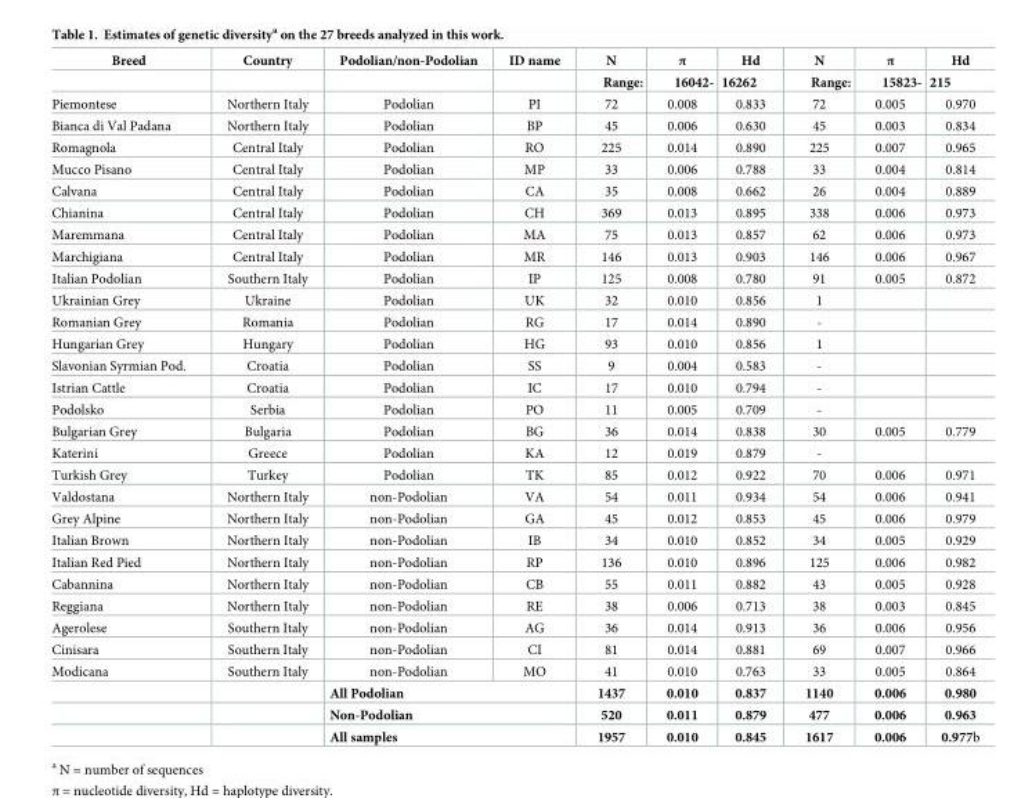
<table><thead><tr><td rowspan="2">Breed</td><td rowspan="2">Country</td><td rowspan="2">Podolian/non-Podolian</td><td rowspan="2">ID name</td><td rowspan="2">N Range:</td><td rowspan="2">π 16042-</td><td rowspan="2">Hd 16262</td><td rowspan="2">N Range:</td><td rowspan="2">π 15823-</td><td rowspan="2">Hd 215</td></tr><tr></tr></thead><tbody><tr><td>Piemontese</td><td>Northern Italy</td><td>Podolian</td><td>PI</td><td>72</td><td>0.008</td><td>0.833</td><td>72</td><td>0.005</td><td>0.970</td></tr><tr><td>Bianca di Val Padana</td><td>Northern Italy</td><td>Podolian</td><td>BP</td><td>45</td><td>0.006</td><td>0.630</td><td>45</td><td>0.003</td><td>0.834</td></tr><tr><td>Romagnola</td><td>Central Italy</td><td>Podolian</td><td>RO</td><td>225</td><td>0.014</td><td>0.890</td><td>225</td><td>0.007</td><td>0.965</td></tr><tr><td>Mucco Pisano</td><td>Central Italy</td><td>Podolian</td><td>MP</td><td>33</td><td>0.006</td><td>0.788</td><td>33</td><td>0.004</td><td>0.814</td></tr><tr><td>Calvana</td><td>Central Italy</td><td>Podolian</td><td>CA</td><td>35</td><td>0.008</td><td>0.662</td><td>26</td><td>0.004</td><td>0.889</td></tr><tr><td>Chianina</td><td>Central Italy</td><td>Podolian</td><td>CH</td><td>369</td><td>0.013</td><td>0.895</td><td>338</td><td>0.006</td><td>0.973</td></tr><tr><td>Maremmana</td><td>Central Italy</td><td>Podolian</td><td>MA</td><td>75</td><td>0.013</td><td>0.857</td><td>62</td><td>0.006</td><td>0.973</td></tr><tr><td>Marchigiana</td><td>Central Italy</td><td>Podolian</td><td>MR</td><td>146</td><td>0.013</td><td>0.903</td><td>146</td><td>0.006</td><td>0.967</td></tr><tr><td>Italian Podolian</td><td>Southern Italy</td><td>Podolian</td><td>IP</td><td>125</td><td>0.008</td><td>0.780</td><td>91</td><td>0.005</td><td>0.872</td></tr><tr><td>Ukrainian Grey</td><td>Ukraine</td><td>Podolian</td><td>UK</td><td>32</td><td>0.010</td><td>0.856</td><td>1</td><td></td><td></td></tr><tr><td>Romanian Grey</td><td>Romania</td><td>Podolian</td><td>RG</td><td>17</td><td>0.014</td><td>0.890</td><td>-</td><td></td><td></td></tr><tr><td>Hungarian Grey</td><td>Hungary</td><td>Podolian</td><td>HG</td><td>93</td><td>0.010</td><td>0.856</td><td>1</td><td></td><td></td></tr><tr><td>Slavonian Syrmian Pod.</td><td>Croatia</td><td>Podolian</td><td>SS</td><td>9</td><td>0.004</td><td>0.583</td><td>-</td><td></td><td></td></tr><tr><td>Istrian Cattle</td><td>Croatia</td><td>Podolian</td><td>IC</td><td>17</td><td>0.010</td><td>0.794</td><td>-</td><td></td><td></td></tr><tr><td>Podolsko</td><td>Serbia</td><td>Podolian</td><td>PO</td><td>11</td><td>0.005</td><td>0.709</td><td>-</td><td></td><td></td></tr><tr><td>Bulgarian Grey</td><td>Bulgaria</td><td>Podolian</td><td>BG</td><td>36</td><td>0.014</td><td>0.838</td><td>30</td><td>0.005</td><td>0.779</td></tr><tr><td>Katerini</td><td>Greece</td><td>Podolian</td><td>KA</td><td>12</td><td>0.019</td><td>0.879</td><td>-</td><td></td><td></td></tr><tr><td>Turkish Grey</td><td>Turkey</td><td>Podolian</td><td>TK</td><td>85</td><td>0.012</td><td>0.922</td><td>70</td><td>0.006</td><td>0.971</td></tr><tr><td>Valdostana</td><td>Northern Italy</td><td>non-Podolian</td><td>VA</td><td>54</td><td>0.011</td><td>0.934</td><td>54</td><td>0.006</td><td>0.941</td></tr><tr><td>Grey Alpine</td><td>Northern Italy</td><td>non-Podolian</td><td>GA</td><td>45</td><td>0.012</td><td>0.853</td><td>45</td><td>0.006</td><td>0.979</td></tr><tr><td>Italian Brown</td><td>Northern Italy</td><td>non-Podolian</td><td>IB</td><td>34</td><td>0.010</td><td>0.852</td><td>34</td><td>0.005</td><td>0.929</td></tr><tr><td>Italian Red Pied</td><td>Northern Italy</td><td>non-Podolian</td><td>RP</td><td>136</td><td>0.010</td><td>0.896</td><td>125</td><td>0.006</td><td>0.982</td></tr><tr><td>Cabannina</td><td>Northern Italy</td><td>non-Podolian</td><td>CB</td><td>55</td><td>0.011</td><td>0.882</td><td>43</td><td>0.005</td><td>0.928</td></tr><tr><td>Reggiana</td><td>Northern Italy</td><td>non-Podolian</td><td>RE</td><td>38</td><td>0.006</td><td>0.713</td><td>38</td><td>0.003</td><td>0.845</td></tr><tr><td>Agerolese</td><td>Southern Italy</td><td>non-Podolian</td><td>AG</td><td>36</td><td>0.014</td><td>0.913</td><td>36</td><td>0.006</td><td>0.956</td></tr><tr><td>Cinisara</td><td>Southern Italy</td><td>non-Podolian</td><td>CI</td><td>81</td><td>0.014</td><td>0.881</td><td>69</td><td>0.007</td><td>0.966</td></tr><tr><td rowspan="4">Modicana</td><td>Southern Italy</td><td>non-Podolian</td><td>MO</td><td>41</td><td>0.010</td><td>0.763</td><td>33</td><td>0.005</td><td>0.864</td></tr><tr><td></td><td colspan="2">All Podolian</td><td>1437</td><td>0.010</td><td>0.837</td><td>1140</td><td>0.006</td><td>0.980</td></tr><tr><td></td><td colspan="2">Non-Podolian</td><td>520</td><td>0.011</td><td>0.879</td><td>477</td><td>0.006</td><td>0.963</td></tr><tr><td></td><td colspan="2">All samples</td><td>1957</td><td>0.010</td><td>0.845</td><td>1617</td><td>0.006</td><td>0.977b</td></tr></tbody></table>